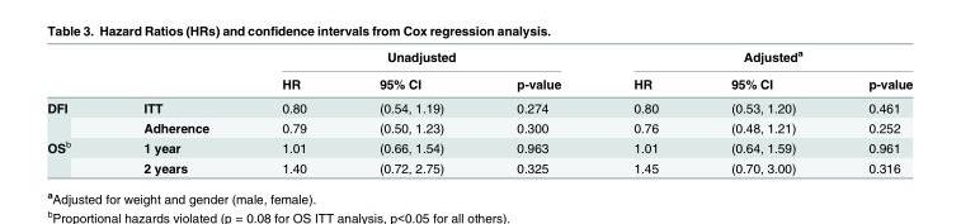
<table><thead><tr><td rowspan="2"></td><td rowspan="2"></td><td colspan="3">Unadjusted</td><td colspan="3">Adjusted<sup>a</sup></td></tr><tr><td>HR</td><td>95% CI</td><td>p-value</td><td>HR</td><td>95% CI</td><td>p-value</td></tr></thead><tbody><tr><td rowspan="2">DFI</td><td>ITT</td><td>0.80</td><td>(0.54, 1.19)</td><td>0.274</td><td>0.80</td><td>(0.53, 1.20)</td><td>0.461</td></tr><tr><td>Adherence</td><td>0.79</td><td>(0.50, 1.23)</td><td>0.300</td><td>0.76</td><td>(0.48, 1.21)</td><td>0.252</td></tr><tr><td rowspan="2">OS<sup>b</sup></td><td>1 year</td><td>1.01</td><td>(0.66, 1.54)</td><td>0.963</td><td>1.01</td><td>(0.64, 1.59)</td><td>0.961</td></tr><tr><td>2 years</td><td>1.40</td><td>(0.72, 2.75)</td><td>0.325</td><td>1.45</td><td>(0.70, 3.00)</td><td>0.316</td></tr></tbody></table>